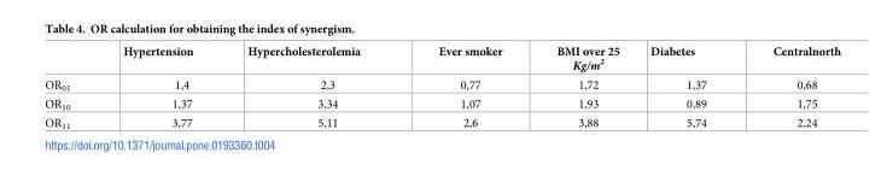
<table><thead><tr><td></td><td>Hypertension</td><td>Hypercholesterolemia</td><td>Ever smoker</td><td>BMI over 25 Kg/m<sup>2</sup></td><td>Diabetes</td><td>Centralnorth</td></tr></thead><tbody><tr><td>OR<sub>01</sub></td><td>1,4</td><td>2,3</td><td>0,77</td><td>1,72</td><td>1,37</td><td>0,68</td></tr><tr><td>OR<sub>10</sub></td><td>1,37</td><td>3,34</td><td>1,07</td><td>1,93</td><td>0,89</td><td>1,75</td></tr><tr><td>OR<sub>11</sub></td><td>3,77</td><td>5,11</td><td>2,6</td><td>3,88</td><td>5,74</td><td>2,24</td></tr></tbody></table>